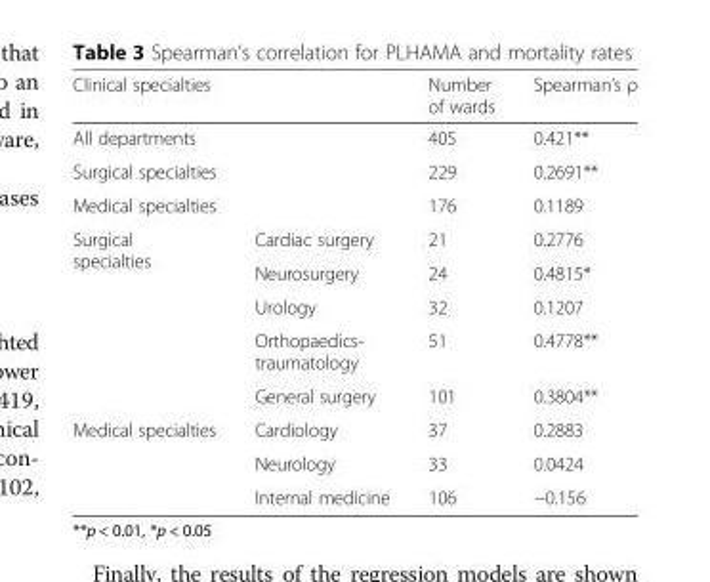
<table><thead><tr><td colspan="2">Clinical specialties</td><td>Number of wards</td><td>Spearman’s ρ</td></tr></thead><tbody><tr><td colspan="2">All departments</td><td>405</td><td>0.421**</td></tr><tr><td colspan="2">Surgical specialties</td><td>229</td><td>0.2691**</td></tr><tr><td colspan="2">Medical specialties</td><td>176</td><td>0.1189</td></tr><tr><td rowspan="5">Surgical specialties</td><td>Cardiac surgery</td><td>21</td><td>0.2776</td></tr><tr><td>Neurosurgery</td><td>24</td><td>0.4815*</td></tr><tr><td>Urology</td><td>32</td><td>0.1207</td></tr><tr><td>Orthopaedics- traumatology</td><td>51</td><td>0.4778**</td></tr><tr><td>General surgery</td><td>101</td><td>0.3804**</td></tr><tr><td rowspan="3">Medical specialties</td><td>Cardiology</td><td>37</td><td>0.2883</td></tr><tr><td>Neurology</td><td>33</td><td>0.0424</td></tr><tr><td>Internal medicine</td><td>106</td><td>−0.156</td></tr></tbody></table>